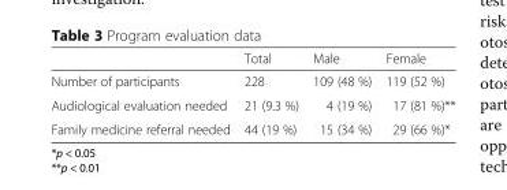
<table><thead><tr><td></td><td>Total</td><td>Male</td><td>Female</td></tr></thead><tbody><tr><td>Number of participants</td><td>228</td><td>109 (48 %)</td><td>119 (52 %)</td></tr><tr><td>Audiological evaluation needed</td><td>21 (9.3 %)</td><td>4 (19 %)</td><td>17 (81 %)**</td></tr><tr><td>Family medicine referral needed</td><td>44 (19 %)</td><td>15 (34 %)</td><td>29 (66 %)*</td></tr></tbody></table>